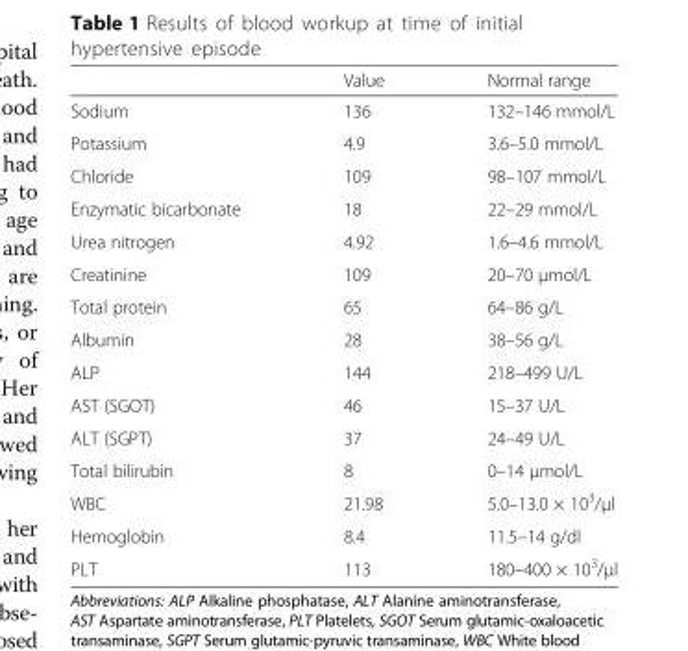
<table><thead><tr><td></td><td>Value</td><td>Normal range</td></tr></thead><tbody><tr><td>Sodium</td><td>136</td><td>132–146 mmol/L</td></tr><tr><td>Potassium</td><td>4.9</td><td>3.6–5.0 mmol/L</td></tr><tr><td>Chloride</td><td>109</td><td>98–107 mmol/L</td></tr><tr><td>Enzymatic bicarbonate</td><td>18</td><td>22–29 mmol/L</td></tr><tr><td>Urea nitrogen</td><td>4.92</td><td>1.6–4.6 mmol/L</td></tr><tr><td>Creatinine</td><td>109</td><td>20–70 μmol/L</td></tr><tr><td>Total protein</td><td>65</td><td>64–86 g/L</td></tr><tr><td>Albumin</td><td>28</td><td>38–56 g/L</td></tr><tr><td>ALP</td><td>144</td><td>218–499 U/L</td></tr><tr><td>AST (SGOT)</td><td>46</td><td>15–37 U/L</td></tr><tr><td>ALT (SGPT)</td><td>37</td><td>24–49 U/L</td></tr><tr><td>Total bilirubin</td><td>8</td><td>0–14 μmol/L</td></tr><tr><td>WBC</td><td>21.98</td><td>5.0–13.0 × 10<sup>3</sup>/μl</td></tr><tr><td>Hemoglobin</td><td>8.4</td><td>11.5–14 g/dl</td></tr><tr><td>PLT</td><td>113</td><td>180–400 × 10<sup>3</sup>/μl</td></tr></tbody></table>